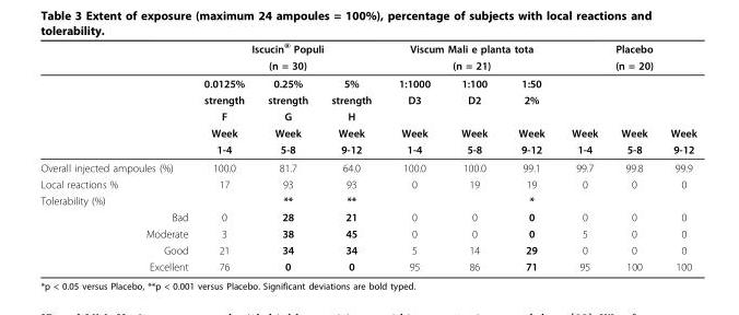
<table><thead><tr><td rowspan="3"></td><td rowspan="2" colspan="3">Iscucin<sup>®</sup> Populi (n = 30)</td><td rowspan="2" colspan="3">Viscum Mali e planta tota (n = 21)</td><td rowspan="2" colspan="3">Placebo (n = 20)</td></tr><tr></tr><tr><td>0.0125%</td><td>0.25%</td><td>5%</td><td>1:1000</td><td>1:100</td><td>1:50</td><td></td><td></td><td></td></tr></thead><tbody><tr><td></td><td>strength</td><td>strength</td><td>strength</td><td>D3</td><td>D2</td><td>2%</td><td></td><td></td><td></td></tr><tr><td></td><td>F</td><td>G</td><td>H</td><td></td><td></td><td></td><td></td><td></td><td></td></tr><tr><td></td><td>Week</td><td>Week</td><td>Week</td><td>Week</td><td>Week</td><td>Week</td><td>Week</td><td>Week</td><td>Week</td></tr><tr><td></td><td>1-4</td><td>5-8</td><td>9-12</td><td>1-4</td><td>5-8</td><td>9-12</td><td>1-4</td><td>5-8</td><td>9-12</td></tr><tr><td>Overall injected ampoules (%)</td><td>100.0</td><td>81.7</td><td>64.0</td><td>100.0</td><td>100.0</td><td>99.1</td><td>99.7</td><td>99.8</td><td>99.9</td></tr><tr><td>Local reactions %</td><td>17</td><td>93</td><td>93</td><td>0</td><td>19</td><td>19</td><td>0</td><td>0</td><td>0</td></tr><tr><td>Tolerability (%)</td><td></td><td>**</td><td>**</td><td></td><td></td><td>*</td><td></td><td></td><td></td></tr><tr><td>Bad</td><td>0</td><td>28</td><td>21</td><td>0</td><td>0</td><td>0</td><td>0</td><td>0</td><td>0</td></tr><tr><td>Moderate</td><td>3</td><td>38</td><td>45</td><td>0</td><td>0</td><td>0</td><td>5</td><td>0</td><td>0</td></tr><tr><td>Good</td><td>21</td><td>34</td><td>34</td><td>5</td><td>14</td><td>29</td><td>0</td><td>0</td><td>0</td></tr><tr><td>Excellent</td><td>76</td><td>0</td><td>0</td><td>95</td><td>86</td><td>71</td><td>95</td><td>100</td><td>100</td></tr></tbody></table>